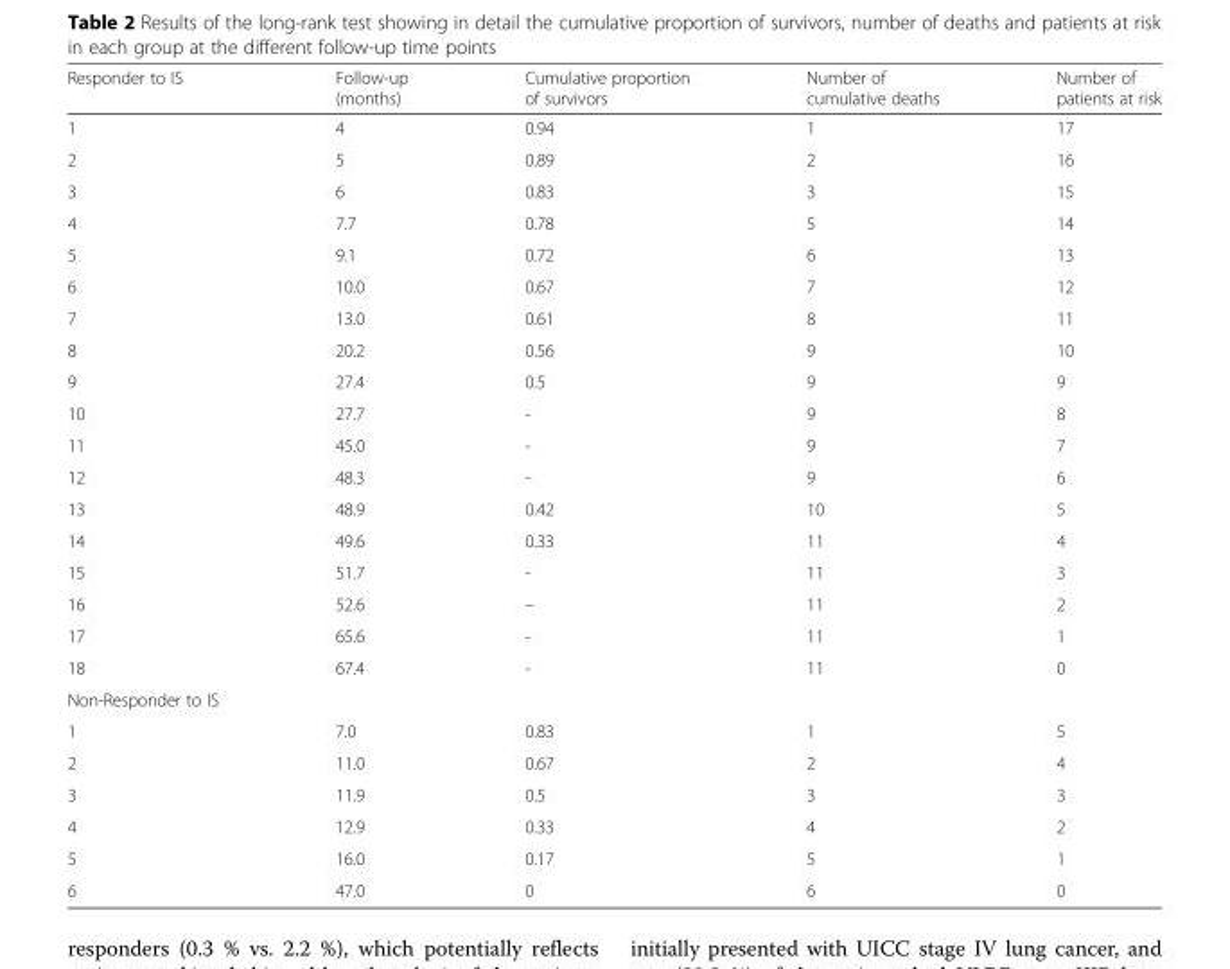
<table><thead><tr><td>Responder to IS</td><td>Follow-up (months)</td><td>Cumulative proportion of survivors</td><td>Number of cumulative deaths</td><td>Number of patients at risk</td></tr></thead><tbody><tr><td>1</td><td>4</td><td>0.94</td><td>1</td><td>17</td></tr><tr><td>2</td><td>5</td><td>0.89</td><td>2</td><td>16</td></tr><tr><td>3</td><td>6</td><td>0.83</td><td>3</td><td>15</td></tr><tr><td>4</td><td>7.7</td><td>0.78</td><td>5</td><td>14</td></tr><tr><td>5</td><td>9.1</td><td>0.72</td><td>6</td><td>13</td></tr><tr><td>6</td><td>10.0</td><td>0.67</td><td>7</td><td>12</td></tr><tr><td>7</td><td>13.0</td><td>0.61</td><td>8</td><td>11</td></tr><tr><td>8</td><td>20.2</td><td>0.56</td><td>9</td><td>10</td></tr><tr><td>9</td><td>27.4</td><td>0.5</td><td>9</td><td>9</td></tr><tr><td>10</td><td>27.7</td><td>-</td><td>9</td><td>8</td></tr><tr><td>11</td><td>45.0</td><td>-</td><td>9</td><td>7</td></tr><tr><td>12</td><td>48.3</td><td>-</td><td>9</td><td>6</td></tr><tr><td>13</td><td>48.9</td><td>0.42</td><td>10</td><td>5</td></tr><tr><td>14</td><td>49.6</td><td>0.33</td><td>11</td><td>4</td></tr><tr><td>15</td><td>51.7</td><td>-</td><td>11</td><td>3</td></tr><tr><td>16</td><td>52.6</td><td>–</td><td>11</td><td>2</td></tr><tr><td>17</td><td>65.6</td><td>-</td><td>11</td><td>1</td></tr><tr><td>18</td><td>67.4</td><td>-</td><td>11</td><td>0</td></tr><tr><td colspan="5">Non-Responder to IS</td></tr><tr><td>1</td><td>7.0</td><td>0.83</td><td>1</td><td>5</td></tr><tr><td>2</td><td>11.0</td><td>0.67</td><td>2</td><td>4</td></tr><tr><td>3</td><td>11.9</td><td>0.5</td><td>3</td><td>3</td></tr><tr><td>4</td><td>12.9</td><td>0.33</td><td>4</td><td>2</td></tr><tr><td>5</td><td>16.0</td><td>0.17</td><td>5</td><td>1</td></tr><tr><td>6</td><td>47.0</td><td>0</td><td>6</td><td>0</td></tr></tbody></table>